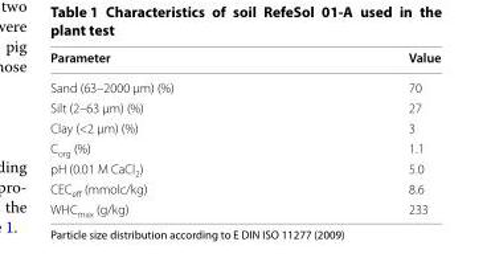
<table><thead><tr><td>Parameter</td><td>Value</td></tr></thead><tbody><tr><td>Sand (63–2000 µm) (%)</td><td>70</td></tr><tr><td>Silt (2–63 µm) (%)</td><td>27</td></tr><tr><td>Clay (&lt;2 µm) (%)</td><td>3</td></tr><tr><td>C<sub>org</sub> (%)</td><td>1.1</td></tr><tr><td>pH (0.01 M CaCl<sub>2</sub>)</td><td>5.0</td></tr><tr><td>CEC<sub>eff</sub> (mmolc/kg)</td><td>8.6</td></tr><tr><td>WHC<sub>max</sub> (g/kg)</td><td>233</td></tr></tbody></table>